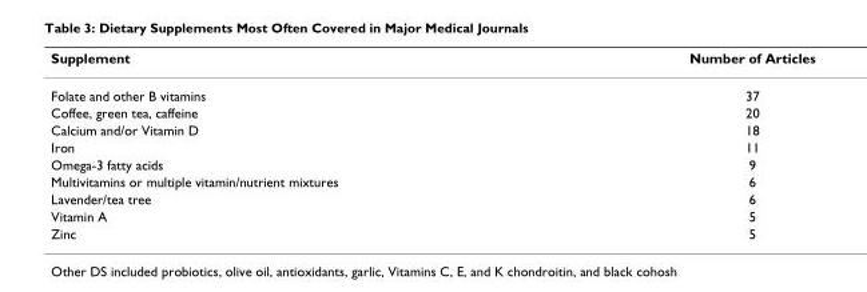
<table><thead><tr><td>Supplement</td><td>Number of Articles</td></tr></thead><tbody><tr><td>Folate and other B vitamins</td><td>37</td></tr><tr><td>Coffee, green tea, caffeine</td><td>20</td></tr><tr><td>Calcium and/or Vitamin D</td><td>18</td></tr><tr><td>Iron</td><td>11</td></tr><tr><td>Omega-3 fatty acids</td><td>9</td></tr><tr><td>Multivitamins or multiple vitamin/nutrient mixtures</td><td>6</td></tr><tr><td>Lavender/tea tree</td><td>6</td></tr><tr><td>Vitamin A</td><td>5</td></tr><tr><td>Zinc</td><td>5</td></tr></tbody></table>